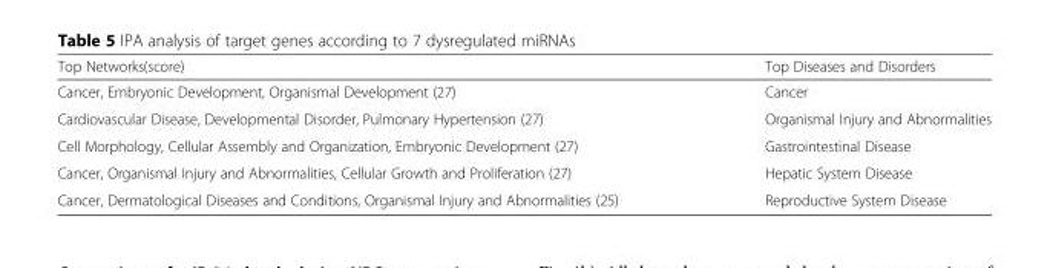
<table><thead><tr><td>Top Networks(score)</td><td>Top Diseases and Disorders</td></tr></thead><tbody><tr><td>Cancer, Embryonic Development, Organismal Development (27)</td><td>Cancer</td></tr><tr><td>Cardiovascular Disease, Developmental Disorder, Pulmonary Hypertension (27)</td><td>Organismal Injury and Abnormalities</td></tr><tr><td>Cell Morphology, Cellular Assembly and Organization, Embryonic Development (27)</td><td>Gastrointestinal Disease</td></tr><tr><td>Cancer, Organismal Injury and Abnormalities, Cellular Growth and Proliferation (27)</td><td>Hepatic System Disease</td></tr><tr><td>Cancer, Dermatological Diseases and Conditions, Organismal Injury and Abnormalities (25)</td><td>Reproductive System Disease</td></tr></tbody></table>